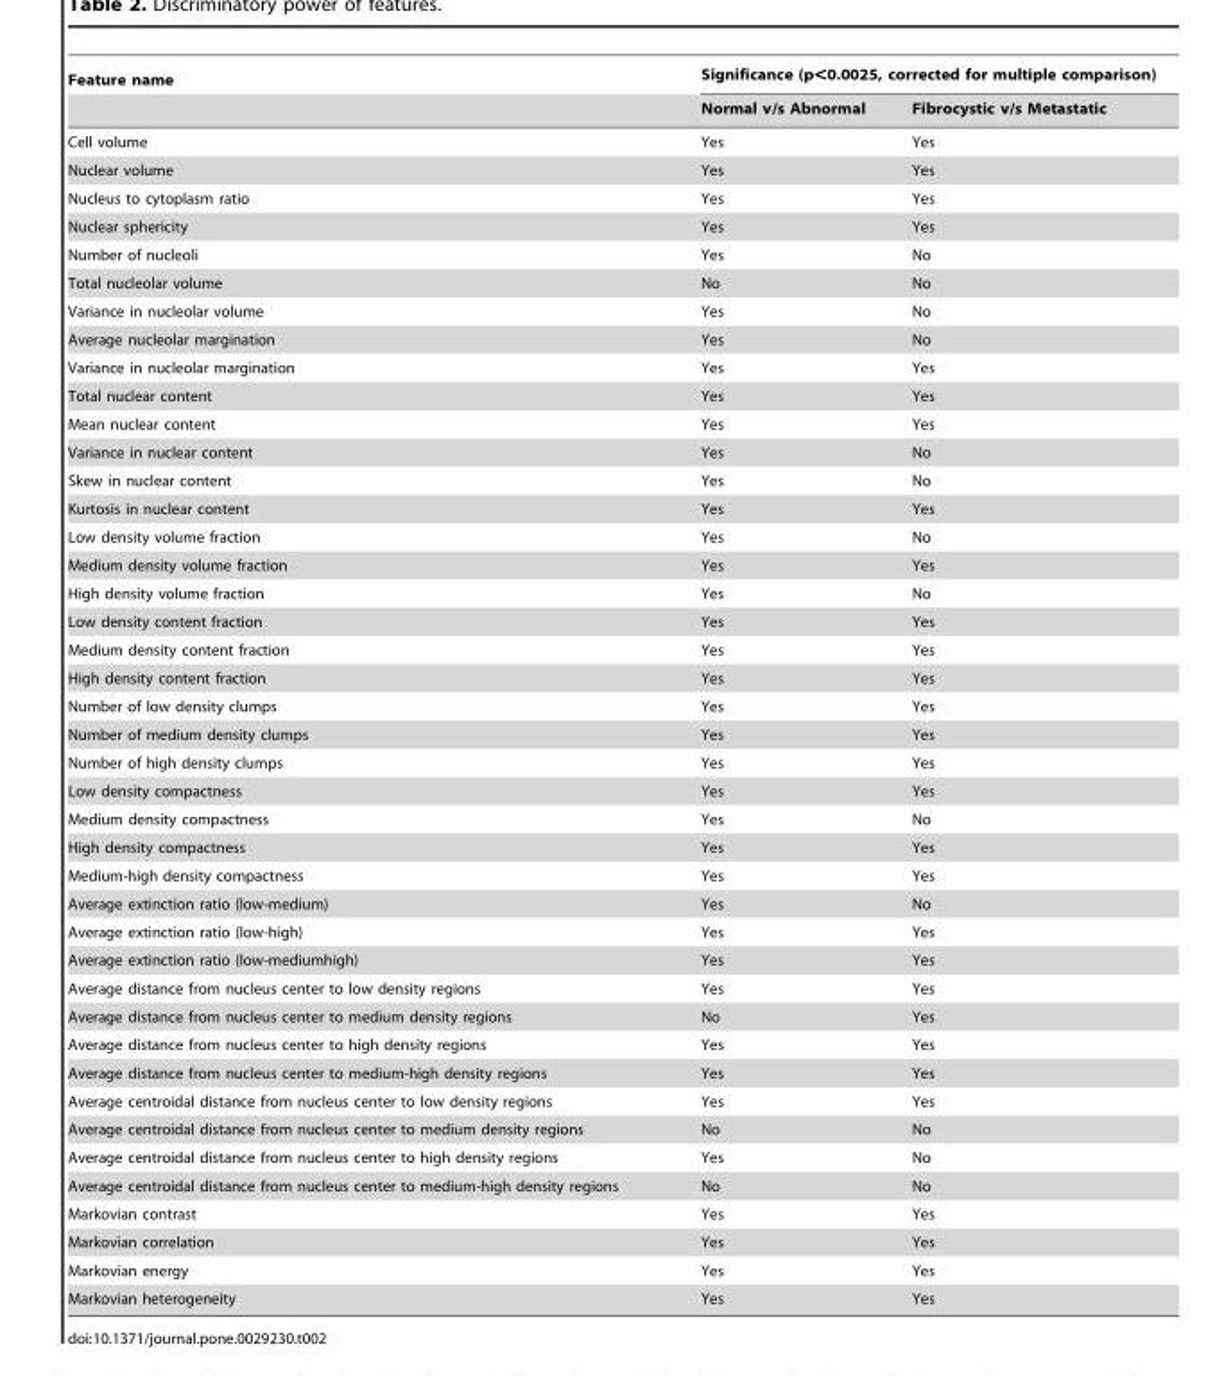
<table><thead><tr><td rowspan="2">Feature name</td><td colspan="2">Significance (p&lt;0.0025, corrected for multiple comparison)</td></tr><tr><td>Normal v/s Abnormal</td><td>Fibrocystic v/s Metastatic</td></tr></thead><tbody><tr><td>Cell volume</td><td>Yes</td><td>Yes</td></tr><tr><td>Nuclear volume</td><td>Yes</td><td>Yes</td></tr><tr><td>Nucleus to cytoplasm ratio</td><td>Yes</td><td>Yes</td></tr><tr><td>Nuclear sphericity</td><td>Yes</td><td>Yes</td></tr><tr><td>Number of nucleoli</td><td>Yes</td><td>No</td></tr><tr><td>Total nucleolar volume</td><td>No</td><td>No</td></tr><tr><td>Variance in nucleolar volume</td><td>Yes</td><td>No</td></tr><tr><td>Average nucleolar margination</td><td>Yes</td><td>No</td></tr><tr><td>Variance in nucleolar margination</td><td>Yes</td><td>Yes</td></tr><tr><td>Total nuclear content</td><td>Yes</td><td>Yes</td></tr><tr><td>Mean nuclear content</td><td>Yes</td><td>Yes</td></tr><tr><td>Variance in nuclear content</td><td>Yes</td><td>No</td></tr><tr><td>Skew in nuclear content</td><td>Yes</td><td>No</td></tr><tr><td>Kurtosis in nuclear content</td><td>Yes</td><td>Yes</td></tr><tr><td>Low density volume fraction</td><td>Yes</td><td>No</td></tr><tr><td>Medium density volume fraction</td><td>Yes</td><td>Yes</td></tr><tr><td>High density volume fraction</td><td>Yes</td><td>No</td></tr><tr><td>Low density content fraction</td><td>Yes</td><td>Yes</td></tr><tr><td>Medium density content fraction</td><td>Yes</td><td>Yes</td></tr><tr><td>High density content fraction</td><td>Yes</td><td>Yes</td></tr><tr><td>Number of low density clumps</td><td>Yes</td><td>Yes</td></tr><tr><td>Number of medium density clumps</td><td>Yes</td><td>Yes</td></tr><tr><td>Number of high density clumps</td><td>Yes</td><td>Yes</td></tr><tr><td>Low density compactness</td><td>Yes</td><td>Yes</td></tr><tr><td>Medium density compactness</td><td>Yes</td><td>No</td></tr><tr><td>High density compactness</td><td>Yes</td><td>Yes</td></tr><tr><td>Medium-high density compactness</td><td>Yes</td><td>Yes</td></tr><tr><td>Average extinction ratio (low-medium)</td><td>Yes</td><td>No</td></tr><tr><td>Average extinction ratio (low-high)</td><td>Yes</td><td>Yes</td></tr><tr><td>Average extinction ratio (low-mediumhigh)</td><td>Yes</td><td>Yes</td></tr><tr><td>Average distance from nucleus center to low density regions</td><td>Yes</td><td>Yes</td></tr><tr><td>Average distance from nucleus center to medium density regions</td><td>No</td><td>Yes</td></tr><tr><td>Average distance from nucleus center to high density regions</td><td>Yes</td><td>Yes</td></tr><tr><td>Average distance from nucleus center to medium-high density regions</td><td>Yes</td><td>Yes</td></tr><tr><td>Average centroidal distance from nucleus center to low density regions</td><td>Yes</td><td>Yes</td></tr><tr><td>Average centroidal distance from nucleus center to medium density regions</td><td>No</td><td>No</td></tr><tr><td>Average centroidal distance from nucleus center to high density regions</td><td>Yes</td><td>No</td></tr><tr><td>Average centroidal distance from nucleus center to medium-high density regions</td><td>No</td><td>No</td></tr><tr><td>Markovian contrast</td><td>Yes</td><td>Yes</td></tr><tr><td>Markovian correlation</td><td>Yes</td><td>Yes</td></tr><tr><td>Markovian energy</td><td>Yes</td><td>Yes</td></tr><tr><td>Markovian heterogeneity</td><td>Yes</td><td>Yes</td></tr></tbody></table>